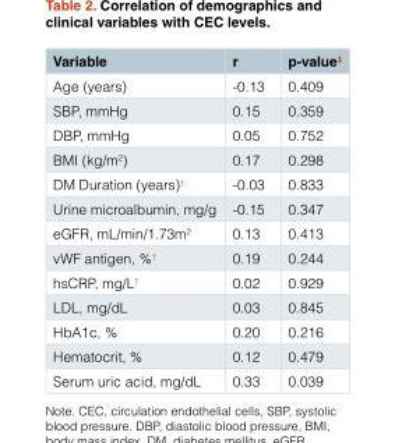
<table><thead><tr><td>Variable</td><td>r</td><td>p-value<sup>‡</sup></td></tr></thead><tbody><tr><td>Age (years)</td><td>-0.13</td><td>0.409</td></tr><tr><td>SBP, mmHg</td><td>0.15</td><td>0.359</td></tr><tr><td>DBP, mmHg</td><td>0.05</td><td>0.752</td></tr><tr><td>BMI (kg/m<sup>2</sup>)</td><td>0.17</td><td>0.298</td></tr><tr><td>DM Duration (years)<sup>†</sup></td><td>-0.03</td><td>0.833</td></tr><tr><td>Urine microalbumin, mg/g</td><td>-0.15</td><td>0.347</td></tr><tr><td>eGFR, mL/min/1.73m<sup>2</sup></td><td>0.13</td><td>0.413</td></tr><tr><td>vWF antigen, %<sup>†</sup></td><td>0.19</td><td>0.244</td></tr><tr><td>hsCRP, mg/L<sup>†</sup></td><td>0.02</td><td>0.929</td></tr><tr><td>LDL, mg/dL</td><td>0.03</td><td>0.845</td></tr><tr><td>HbA1c, %</td><td>0.20</td><td>0.216</td></tr><tr><td>Hematocrit, %</td><td>0.12</td><td>0.479</td></tr><tr><td>Serum uric acid, mg/dL</td><td>0.33</td><td>0.039</td></tr></tbody></table>